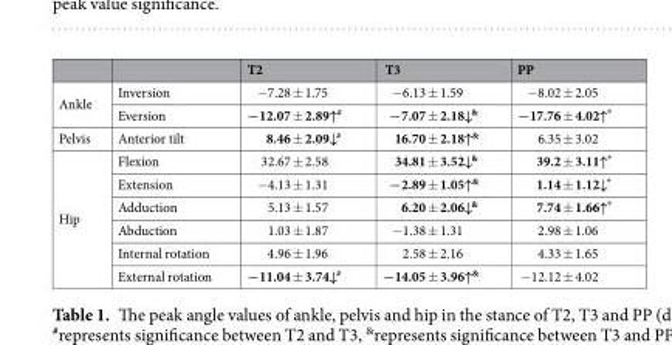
<table><thead><tr><td></td><td></td><td>T2</td><td>T3</td><td>PP</td></tr></thead><tbody><tr><td rowspan="2">Ankle</td><td>Inversion</td><td>−7.28 ± 1.75</td><td>−6.13 ± 1.59</td><td>−8.02 ± 2.05</td></tr><tr><td>Eversion</td><td>−12.07 ± 2.89↑<sup>#</sup></td><td>−7.07 ± 2.18↓<sup>&amp;</sup></td><td>−17.76 ± 4.02↑*</td></tr><tr><td>Pelvis</td><td>Anterior tilt</td><td>8.46 ± 2.09↓<sup>#</sup></td><td>16.70 ± 2.18↑<sup>&amp;</sup></td><td>6.35 ± 3.02</td></tr><tr><td rowspan="6">Hip</td><td>Flexion</td><td>32.67 ± 2.58</td><td>34.81 ± 3.52↓<sup>&amp;</sup></td><td>39.2 ± 3.11↑*</td></tr><tr><td>Extension</td><td>−4.13 ± 1.31</td><td>−2.89 ± 1.05↑<sup>&amp;</sup></td><td>1.14 ± 1.12↓*</td></tr><tr><td>Adduction</td><td>5.13 ± 1.57</td><td>6.20 ± 2.06↓<sup>&amp;</sup></td><td>7.74 ± 1.66↑*</td></tr><tr><td>Abduction</td><td>1.03 ± 1.87</td><td>−1.38 ± 1.31</td><td>2.98 ± 1.06</td></tr><tr><td>Internal rotation</td><td>4.96 ± 1.96</td><td>2.58 ± 2.16</td><td>4.33 ± 1.65</td></tr><tr><td>External rotation</td><td>−11.04 ± 3.74↓<sup>#</sup></td><td>−14.05 ± 3.96↑<sup>&amp;</sup></td><td>−12.12 ± 4.02</td></tr></tbody></table>